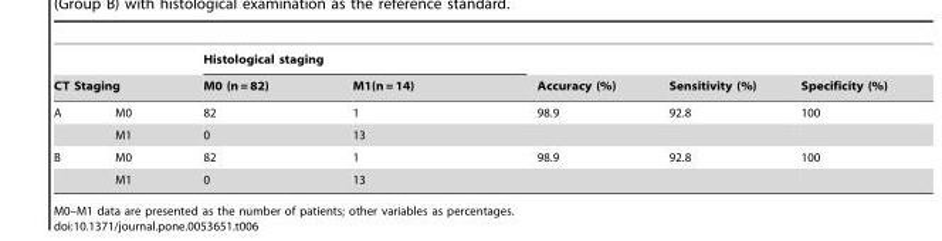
<table><thead><tr><td></td><td></td><td colspan="2">Histological staging</td><td rowspan="2">Accuracy (%)</td><td rowspan="2">Sensitivity (%)</td><td rowspan="2">Specificity (%)</td></tr><tr><td colspan="2">CT Staging</td><td>M0 (n = 82)</td><td>M1(n = 14)</td></tr></thead><tbody><tr><td rowspan="2">A</td><td>M0</td><td>82</td><td>1</td><td>98.9</td><td>92.8</td><td>100</td></tr><tr><td>M1</td><td>0</td><td>13</td><td></td><td></td><td></td></tr><tr><td rowspan="2">B</td><td>M0</td><td>82</td><td>1</td><td>98.9</td><td>92.8</td><td>100</td></tr><tr><td>M1</td><td>0</td><td>13</td><td></td><td></td><td></td></tr></tbody></table>